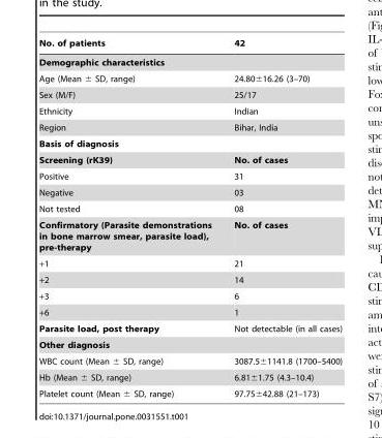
<table><thead><tr><td>No. of patients</td><td>42</td></tr></thead><tbody><tr><td colspan="2">Demographic characteristics</td></tr><tr><td>Age (Mean ± SD, range)</td><td>24.80±16.26 (3–70)</td></tr><tr><td>Sex (M/F)</td><td>25/17</td></tr><tr><td>Ethnicity</td><td>Indian</td></tr><tr><td>Region</td><td>Bihar, India</td></tr><tr><td colspan="2">Basis of diagnosis</td></tr><tr><td>Screening (rK39)</td><td>No. of cases</td></tr><tr><td>Positive</td><td>31</td></tr><tr><td>Negative</td><td>03</td></tr><tr><td>Not tested</td><td>08</td></tr><tr><td>Confirmatory (Parasite demonstrations in bone marrow smear, parasite load), pre-therapy</td><td>No. of cases</td></tr><tr><td>+1</td><td>21</td></tr><tr><td>+2</td><td>14</td></tr><tr><td>+3</td><td>6</td></tr><tr><td>+6</td><td>1</td></tr><tr><td>Parasite load, post therapy</td><td>Not detectable (in all cases)</td></tr><tr><td colspan="2">Other diagnosis</td></tr><tr><td>WBC count (Mean ± SD, range)</td><td>3087.5±1141.8 (1700–5400)</td></tr><tr><td>Hb (Mean ± SD, range)</td><td>6.81±1.75 (4.3–10.4)</td></tr><tr><td>Platelet count (Mean ± SD, range)</td><td>97.75±42.88 (21–173)</td></tr></tbody></table>